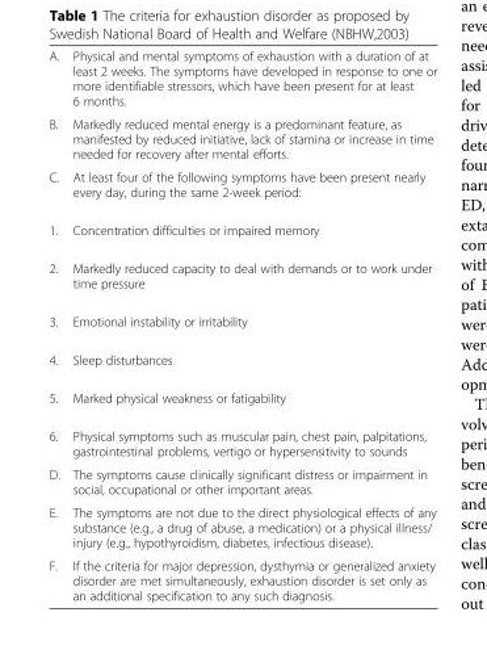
<table><tbody><tr><td>A.</td><td>Physical and mental symptoms of exhaustion with a duration of at least 2 weeks. The symptoms have developed in response to one or more identifiable stressors, which have been present for at least 6 months.</td></tr><tr><td>B.</td><td>Markedly reduced mental energy is a predominant feature, as manifested by reduced initiative, lack of stamina or increase in time needed for recovery after mental efforts.</td></tr><tr><td>C.</td><td>At least four of the following symptoms have been present nearly every day, during the same 2-week period:</td></tr><tr><td>1.</td><td>Concentration difficulties or impaired memory</td></tr><tr><td>2.</td><td>Markedly reduced capacity to deal with demands or to work under time pressure</td></tr><tr><td>3.</td><td>Emotional instability or irritability</td></tr><tr><td>4.</td><td>Sleep disturbances</td></tr><tr><td>5.</td><td>Marked physical weakness or fatigability</td></tr><tr><td>6.</td><td>Physical symptoms such as muscular pain, chest pain, palpitations, gastrointestinal problems, vertigo or hypersensitivity to sounds</td></tr><tr><td>D.</td><td>The symptoms cause clinically significant distress or impairment in social, occupational or other important areas.</td></tr><tr><td>E.</td><td>The symptoms are not due to the direct physiological effects of any substance (e.g., a drug of abuse, a medication) or a physical illness/ injury (e.g., hypothyroidism, diabetes, infectious disease).</td></tr><tr><td>F.</td><td>If the criteria for major depression, dysthymia or generalized anxiety disorder are met simultaneously, exhaustion disorder is set only as an additional specification to any such diagnosis.</td></tr></tbody></table>